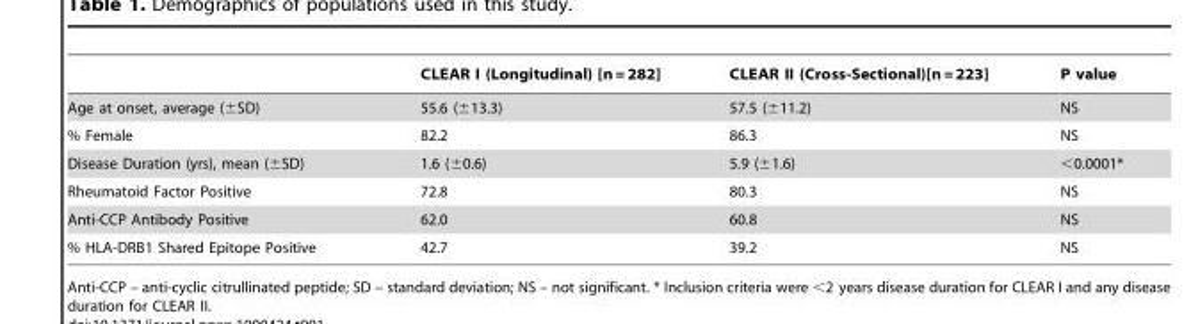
<table><thead><tr><td></td><td>CLEAR I (Longitudinal) [n = 282]</td><td>CLEAR II (Cross-Sectional)[n = 223]</td><td>P value</td></tr></thead><tbody><tr><td>Age at onset, average (±SD)</td><td>55.6 (±13.3)</td><td>57.5 (±11.2)</td><td>NS</td></tr><tr><td>% Female</td><td>82.2</td><td>86.3</td><td>NS</td></tr><tr><td>Disease Duration (yrs), mean (±SD)</td><td>1.6 (±0.6)</td><td>5.9 (±1.6)</td><td>&lt;0.0001*</td></tr><tr><td>Rheumatoid Factor Positive</td><td>72.8</td><td>80.3</td><td>NS</td></tr><tr><td>Anti-CCP Antibody Positive</td><td>62.0</td><td>60.8</td><td>NS</td></tr><tr><td>% HLA-DRB1 Shared Epitope Positive</td><td>42.7</td><td>39.2</td><td>NS</td></tr></tbody></table>